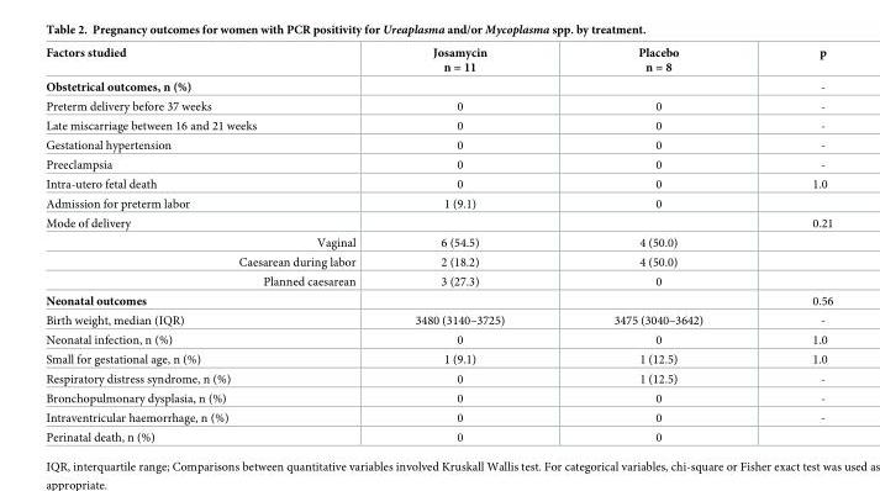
<table><thead><tr><td>Factors studied</td><td>Josamycin n = 11</td><td>Placebo n = 8</td><td>p</td></tr></thead><tbody><tr><td>Obstetrical outcomes, n (%)</td><td></td><td></td><td>-</td></tr><tr><td>Preterm delivery before 37 weeks</td><td>0</td><td>0</td><td>-</td></tr><tr><td>Late miscarriage between 16 and 21 weeks</td><td>0</td><td>0</td><td>-</td></tr><tr><td>Gestational hypertension</td><td>0</td><td>0</td><td>-</td></tr><tr><td>Preeclampsia</td><td>0</td><td>0</td><td>-</td></tr><tr><td>Intra-utero fetal death</td><td>0</td><td>0</td><td>1.0</td></tr><tr><td>Admission for preterm labor</td><td>1 (9.1)</td><td>0</td><td></td></tr><tr><td>Mode of delivery</td><td></td><td></td><td>0.21</td></tr><tr><td>Vaginal</td><td>6 (54.5)</td><td>4 (50.0)</td><td></td></tr><tr><td>Caesarean during labor</td><td>2 (18.2)</td><td>4 (50.0)</td><td></td></tr><tr><td>Planned caesarean</td><td>3 (27.3)</td><td>0</td><td></td></tr><tr><td>Neonatal outcomes</td><td></td><td></td><td>0.56</td></tr><tr><td>Birth weight, median (IQR)</td><td>3480 (3140–3725)</td><td>3475 (3040–3642)</td><td>-</td></tr><tr><td>Neonatal infection, n (%)</td><td>0</td><td>0</td><td>1.0</td></tr><tr><td>Small for gestational age, n (%)</td><td>1 (9.1)</td><td>1 (12.5)</td><td>1.0</td></tr><tr><td>Respiratory distress syndrome, n (%)</td><td>0</td><td>1 (12.5)</td><td>-</td></tr><tr><td>Bronchopulmonary dysplasia, n (%)</td><td>0</td><td>0</td><td>-</td></tr><tr><td>Intraventricular haemorrhage, n (%)</td><td>0</td><td>0</td><td>-</td></tr><tr><td>Perinatal death, n (%)</td><td>0</td><td>0</td><td></td></tr></tbody></table>